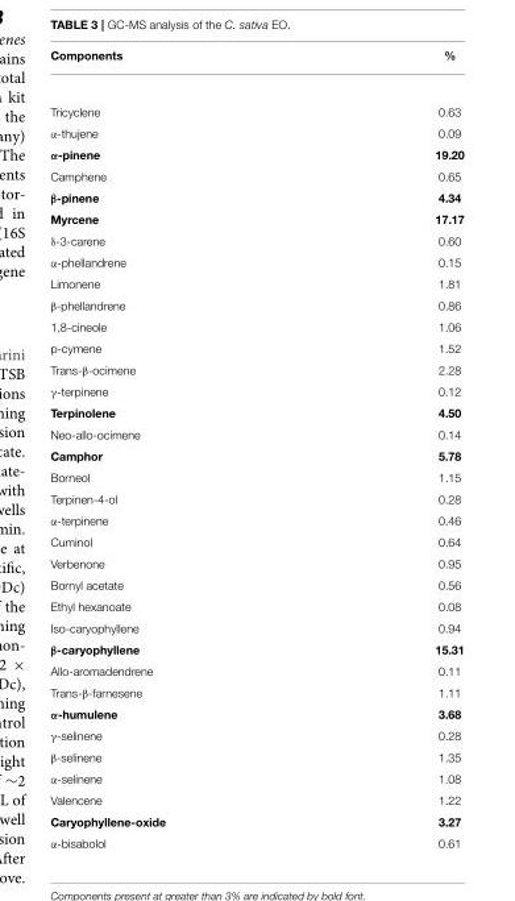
<table><thead><tr><td>Components</td><td>%</td></tr></thead><tbody><tr><td>Tricyclene</td><td>0.63</td></tr><tr><td>α-thujene</td><td>0.09</td></tr><tr><td>α-pinene</td><td>19.20</td></tr><tr><td>Camphene</td><td>0.65</td></tr><tr><td>β-pinene</td><td>4.34</td></tr><tr><td>Myrcene</td><td>17.17</td></tr><tr><td>δ-3-carene</td><td>0.60</td></tr><tr><td>α-phellandrene</td><td>0.15</td></tr><tr><td>Limonene</td><td>1.81</td></tr><tr><td>β-phellandrene</td><td>0.86</td></tr><tr><td>1,8-cineole</td><td>1.06</td></tr><tr><td>p-cymene</td><td>1.52</td></tr><tr><td>Trans-β-ocimene</td><td>2.28</td></tr><tr><td>γ-terpinene</td><td>0.12</td></tr><tr><td>Terpinolene</td><td>4.50</td></tr><tr><td>Neo-allo-ocimene</td><td>0.14</td></tr><tr><td>Camphor</td><td>5.78</td></tr><tr><td>Borneol</td><td>1.15</td></tr><tr><td>Terpinen-4-ol</td><td>0.28</td></tr><tr><td>α-terpinene</td><td>0.46</td></tr><tr><td>Cuminol</td><td>0.64</td></tr><tr><td>Verbenone</td><td>0.95</td></tr><tr><td>Bornyl acetate</td><td>0.56</td></tr><tr><td>Ethyl hexanoate</td><td>0.08</td></tr><tr><td>Iso-caryophyllene</td><td>0.94</td></tr><tr><td>β-caryophyllene</td><td>15.31</td></tr><tr><td>Allo-aromadendrene</td><td>0.11</td></tr><tr><td>Trans-β-farnesene</td><td>1.11</td></tr><tr><td>α-humulene</td><td>3.68</td></tr><tr><td>γ-selinene</td><td>0.28</td></tr><tr><td>β-selinene</td><td>1.35</td></tr><tr><td>α-selinene</td><td>1.08</td></tr><tr><td>Valencene</td><td>1.22</td></tr><tr><td>Caryophyllene-oxide</td><td>3.27</td></tr><tr><td>α-bisabolol</td><td>0.61</td></tr></tbody></table>